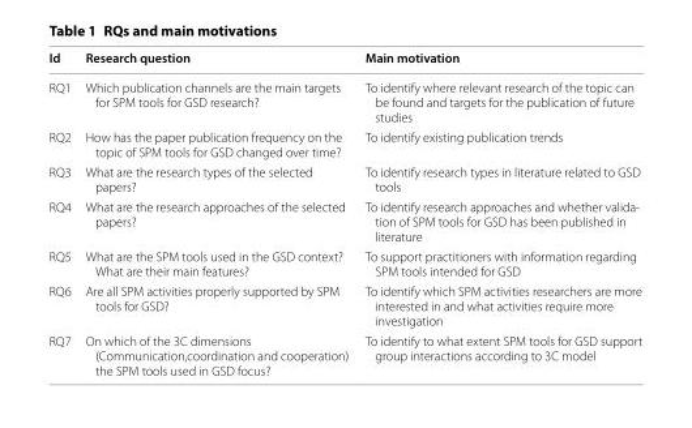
<table><thead><tr><td>Id</td><td>Research question</td><td>Main motivation</td></tr></thead><tbody><tr><td>RQ1</td><td>Which publication channels are the main targets for SPM tools for GSD research?</td><td>To identify where relevant research of the topic can be found and targets for the publication of future studies</td></tr><tr><td>RQ2</td><td>How has the paper publication frequency on the topic of SPM tools for GSD changed over time?</td><td>To identify existing publication trends</td></tr><tr><td>RQ3</td><td>What are the research types of the selected papers?</td><td>To identify research types in literature related to GSD tools</td></tr><tr><td>RQ4</td><td>What are the research approaches of the selected papers?</td><td>To identify research approaches and whether valida‑ tion of SPM tools for GSD has been published in literature</td></tr><tr><td>RQ5</td><td>What are the SPM tools used in the GSD context? What are their main features?</td><td>To support practitioners with information regarding SPM tools intended for GSD</td></tr><tr><td>RQ6</td><td>Are all SPM activities properly supported by SPM tools for GSD?</td><td>To identify which SPM activities researchers are more interested in and what activities require more investigation</td></tr><tr><td>RQ7</td><td>On which of the 3C dimensions (Communication,coordination and cooperation) the SPM tools used in GSD focus?</td><td>To identify to what extent SPM tools for GSD support group interactions according to 3C model</td></tr></tbody></table>